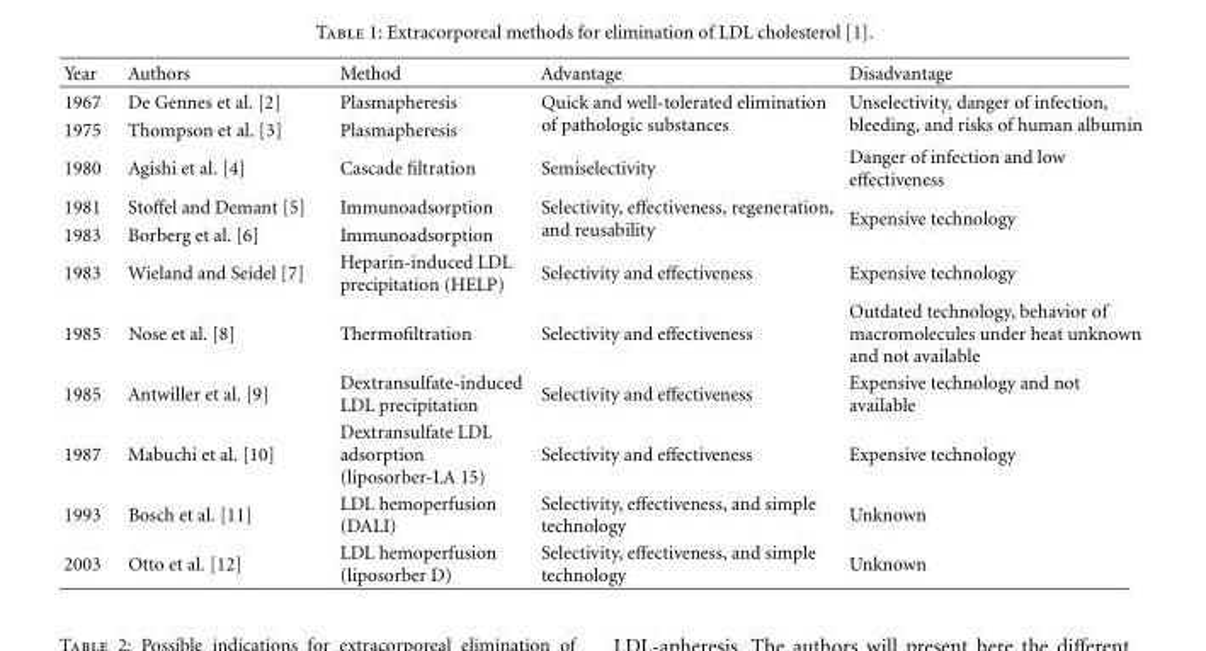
<table><thead><tr><td>Year</td><td>Authors</td><td>Method</td><td>Advantage</td><td>Disadvantage</td></tr></thead><tbody><tr><td>1967</td><td>De Gennes et al. [2]</td><td>Plasmapheresis</td><td rowspan="2">Quick and well-tolerated elimination of pathologic substances</td><td rowspan="2">Unselectivity, danger of infection, bleeding, and risks of human albumin</td></tr><tr><td>1975</td><td>Thompson et al. [3]</td><td>Plasmapheresis</td></tr><tr><td>1980</td><td>Agishi et al. [4]</td><td>Cascade filtration</td><td>Semiselectivity</td><td>Danger of infection and low effectiveness</td></tr><tr><td>1981</td><td>Stoffel and Demant [5]</td><td>Immunoadsorption</td><td rowspan="2">Selectivity, effectiveness, regeneration, and reusability</td><td rowspan="2">Expensive technology</td></tr><tr><td>1983</td><td>Borberg et al. [6]</td><td>Immunoadsorption</td></tr><tr><td>1983</td><td>Wieland and Seidel [7]</td><td>Heparin-induced LDL precipitation (HELP)</td><td>Selectivity and effectiveness</td><td>Expensive technology</td></tr><tr><td>1985</td><td>Nose et al. [8]</td><td>Thermofiltration</td><td>Selectivity and effectiveness</td><td>Outdated technology, behavior of macromolecules under heat unknown and not available</td></tr><tr><td>1985</td><td>Antwiller et al. [9]</td><td>Dextransulfate-induced LDL precipitation</td><td>Selectivity and effectiveness</td><td>Expensive technology and not available</td></tr><tr><td>1987</td><td>Mabuchi et al. [10]</td><td>Dextransulfate LDL adsorption (liposorber-LA 15)</td><td>Selectivity and effectiveness</td><td>Expensive technology</td></tr><tr><td>1993</td><td>Bosch et al. [11]</td><td>LDL hemoperfusion (DALI)</td><td>Selectivity, effectiveness, and simple technology</td><td>Unknown</td></tr><tr><td>2003</td><td>Otto et al. [12]</td><td>LDL hemoperfusion (liposorber D)</td><td>Selectivity, effectiveness, and simple technology</td><td>Unknown</td></tr></tbody></table>